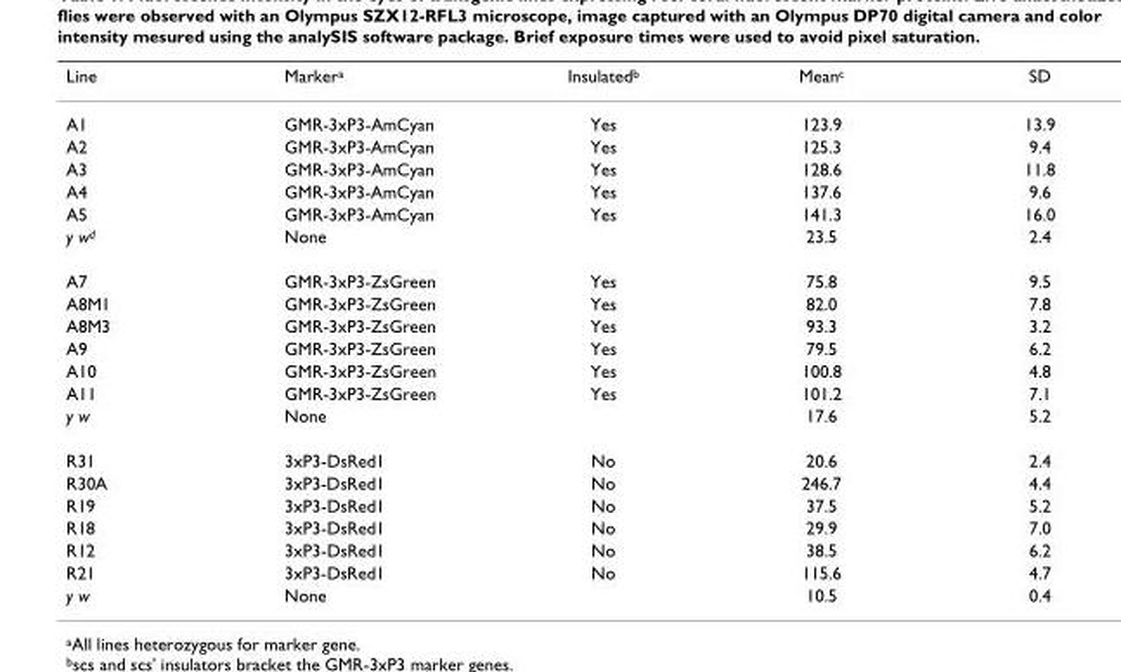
<table><thead><tr><td>Line</td><td>Markera</td><td>Insulatedb</td><td>Meanc</td><td>SD</td></tr></thead><tbody><tr><td>A1</td><td>GMR-3xP3-AmCyan</td><td>Yes</td><td>123.9</td><td>13.9</td></tr><tr><td>A2</td><td>GMR-3xP3-AmCyan</td><td>Yes</td><td>125.3</td><td>9.4</td></tr><tr><td>A3</td><td>GMR-3xP3-AmCyan</td><td>Yes</td><td>128.6</td><td>11.8</td></tr><tr><td>A4</td><td>GMR-3xP3-AmCyan</td><td>Yes</td><td>137.6</td><td>9.6</td></tr><tr><td>A5</td><td>GMR-3xP3-AmCyan</td><td>Yes</td><td>141.3</td><td>16.0</td></tr><tr><td>y wd</td><td>None</td><td></td><td>23.5</td><td>2.4</td></tr><tr><td>A7</td><td>GMR-3xP3-ZsGreen</td><td>Yes</td><td>75.8</td><td>9.5</td></tr><tr><td>A8M1</td><td>GMR-3xP3-ZsGreen</td><td>Yes</td><td>82.0</td><td>7.8</td></tr><tr><td>A8M3</td><td>GMR-3xP3-ZsGreen</td><td>Yes</td><td>93.3</td><td>3.2</td></tr><tr><td>A9</td><td>GMR-3xP3-ZsGreen</td><td>Yes</td><td>79.5</td><td>6.2</td></tr><tr><td>A10</td><td>GMR-3xP3-ZsGreen</td><td>Yes</td><td>100.8</td><td>4.8</td></tr><tr><td>A11</td><td>GMR-3xP3-ZsGreen</td><td>Yes</td><td>101.2</td><td>7.1</td></tr><tr><td>y w</td><td>None</td><td></td><td>17.6</td><td>5.2</td></tr><tr><td>R31</td><td>3xP3-DsRed1</td><td>No</td><td>20.6</td><td>2.4</td></tr><tr><td>R30A</td><td>3xP3-DsRed1</td><td>No</td><td>246.7</td><td>4.4</td></tr><tr><td>R19</td><td>3xP3-DsRed1</td><td>No</td><td>37.5</td><td>5.2</td></tr><tr><td>R18</td><td>3xP3-DsRed1</td><td>No</td><td>29.9</td><td>7.0</td></tr><tr><td>R12</td><td>3xP3-DsRed1</td><td>No</td><td>38.5</td><td>6.2</td></tr><tr><td>R21</td><td>3xP3-DsRed1</td><td>No</td><td>115.6</td><td>4.7</td></tr><tr><td>y w</td><td>None</td><td></td><td>10.5</td><td>0.4</td></tr></tbody></table>